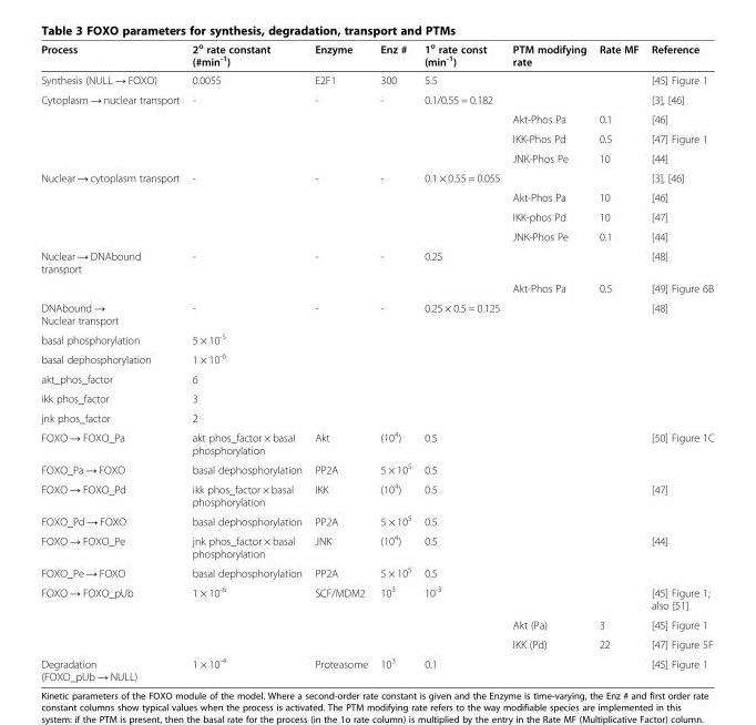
<table><thead><tr><td>Process</td><td>2<sup>o</sup> rate constant (#min<sup>-1</sup>)</td><td>Enzyme</td><td>Enz #</td><td>1<sup>o</sup> rate const (min<sup>-1</sup>)</td><td>PTM modifying rate</td><td>Rate MF</td><td>Reference</td></tr></thead><tbody><tr><td>Synthesis (NULL → FOXO)</td><td>0.0055</td><td>E2F1</td><td>300</td><td>5.5</td><td></td><td></td><td>[45] Figure 1</td></tr><tr><td rowspan="4">Cytoplasm → nuclear transport</td><td>-</td><td>-</td><td>-</td><td>0.1/0.55 = 0.182</td><td></td><td></td><td>[3], [46]</td></tr><tr><td></td><td></td><td></td><td></td><td>Akt-Phos Pa</td><td>0.1</td><td>[46]</td></tr><tr><td></td><td></td><td></td><td></td><td>IKK-Phos Pd</td><td>0.5</td><td>[47] Figure 1</td></tr><tr><td></td><td></td><td></td><td></td><td>JNK-Phos Pe</td><td>10</td><td>[44]</td></tr><tr><td rowspan="4">Nuclear → cytoplasm transport</td><td>-</td><td>-</td><td>-</td><td>0.1 × 0.55 = 0.055</td><td></td><td></td><td>[3], [46]</td></tr><tr><td></td><td></td><td></td><td></td><td>Akt-Phos Pa</td><td>10</td><td>[46]</td></tr><tr><td></td><td></td><td></td><td></td><td>IKK-phos Pd</td><td>10</td><td>[47]</td></tr><tr><td></td><td></td><td></td><td></td><td>JNK-Phos Pe</td><td>0.1</td><td>[44]</td></tr><tr><td rowspan="2">Nuclear → DNAbound transport</td><td>-</td><td>-</td><td>-</td><td>0.25</td><td></td><td></td><td>[48]</td></tr><tr><td></td><td></td><td></td><td></td><td>Akt-Phos Pa</td><td>0.5</td><td>[49] Figure 6B</td></tr><tr><td>DNAbound → Nuclear transport</td><td>-</td><td>-</td><td>-</td><td>0.25 × 0.5 = 0.125</td><td></td><td></td><td>[48]</td></tr><tr><td>basal phosphorylation</td><td>5 × 10<sup>-5</sup></td><td></td><td></td><td></td><td></td><td></td><td></td></tr><tr><td>basal dephosphorylation</td><td>1 × 10<sup>-6</sup></td><td></td><td></td><td></td><td></td><td></td><td></td></tr><tr><td>akt_phos_factor</td><td>6</td><td></td><td></td><td></td><td></td><td></td><td></td></tr><tr><td>ikk phos_factor</td><td>3</td><td></td><td></td><td></td><td></td><td></td><td></td></tr><tr><td>jnk phos_factor</td><td>2</td><td></td><td></td><td></td><td></td><td></td><td></td></tr><tr><td>FOXO → FOXO_Pa</td><td>akt phos_factor × basal phosphorylation</td><td>Akt</td><td>(10<sup>4</sup>)</td><td>0.5</td><td></td><td></td><td>[50] Figure 1C</td></tr><tr><td>FOXO_Pa → FOXO</td><td>basal dephosphorylation</td><td>PP2A</td><td>5 × 10<sup>5</sup></td><td>0.5</td><td></td><td></td><td></td></tr><tr><td>FOXO → FOXO_Pd</td><td>ikk phos_factor × basal phosphorylation</td><td>IKK</td><td>(10<sup>4</sup>)</td><td>0.5</td><td></td><td></td><td>[47]</td></tr><tr><td>FOXO_Pd → FOXO</td><td>basal dephosphorylation</td><td>PP2A</td><td>5 × 10<sup>5</sup></td><td>0.5</td><td></td><td></td><td></td></tr><tr><td>FOXO → FOXO_Pe</td><td>jnk phos_factor × basal phosphorylation</td><td>JNK</td><td>(10<sup>4</sup>)</td><td>0.5</td><td></td><td></td><td>[44]</td></tr><tr><td>FOXO_Pe → FOXO</td><td>basal dephosphorylation</td><td>PP2A</td><td>5 × 10<sup>5</sup></td><td>0.5</td><td></td><td></td><td></td></tr><tr><td rowspan="3">FOXO → FOXO_pUb</td><td>1 × 10<sup>-6</sup></td><td>SCF/MDM2</td><td>10<sup>3</sup></td><td>10<sup>-3</sup></td><td></td><td></td><td>[45] Figure 1; also [51]</td></tr><tr><td></td><td></td><td></td><td></td><td>Akt (Pa)</td><td>3</td><td>[45] Figure 1</td></tr><tr><td></td><td></td><td></td><td></td><td>IKK (Pd)</td><td>22</td><td>[47] Figure 5F</td></tr><tr><td>Degradation (FOXO_pUb → NULL)</td><td>1 × 10<sup>-4</sup></td><td>Proteasome</td><td>10<sup>3</sup></td><td>0.1</td><td></td><td></td><td>[45] Figure 1</td></tr></tbody></table>